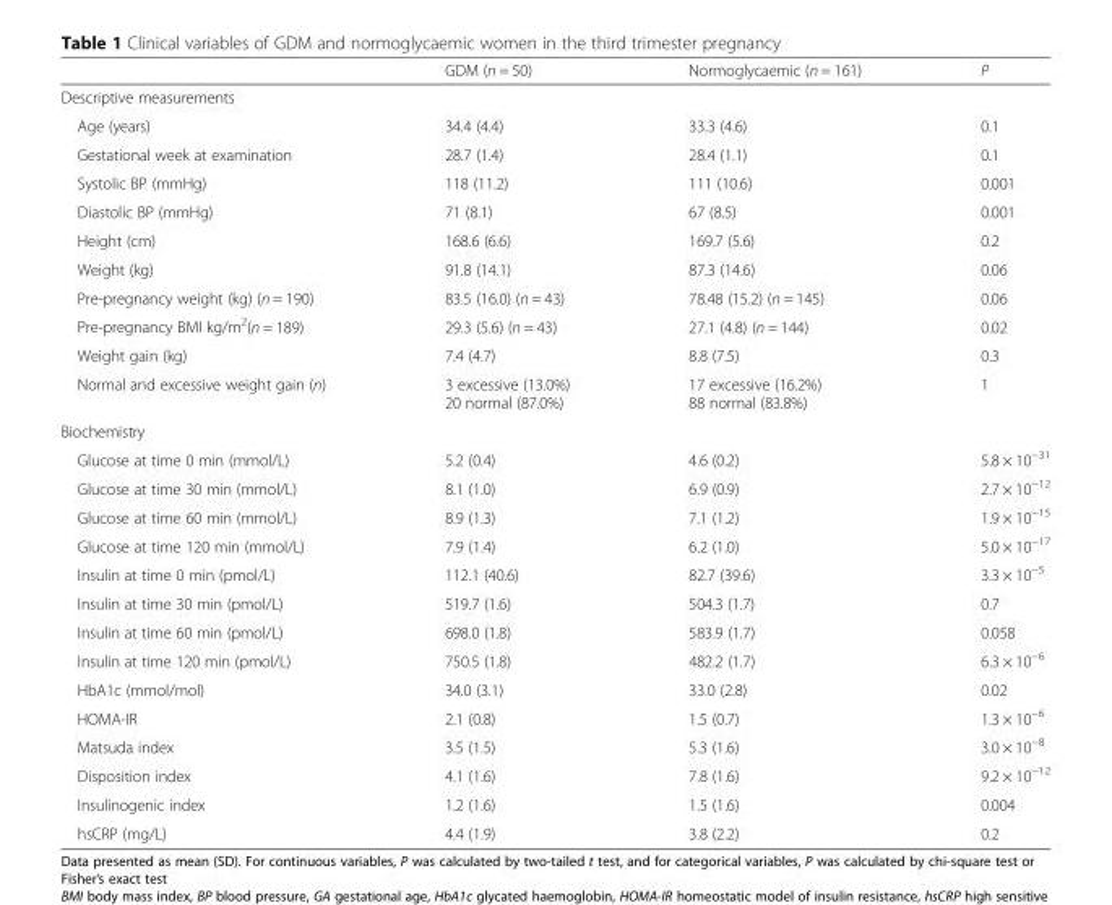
<table><thead><tr><td></td><td>GDM (n = 50)</td><td>Normoglycaemic (n = 161)</td><td>P</td></tr></thead><tbody><tr><td colspan="4">Descriptive measurements</td></tr><tr><td>Age (years)</td><td>34.4 (4.4)</td><td>33.3 (4.6)</td><td>0.1</td></tr><tr><td>Gestational week at examination</td><td>28.7 (1.4)</td><td>28.4 (1.1)</td><td>0.1</td></tr><tr><td>Systolic BP (mmHg)</td><td>118 (11.2)</td><td>111 (10.6)</td><td>0.001</td></tr><tr><td>Diastolic BP (mmHg)</td><td>71 (8.1)</td><td>67 (8.5)</td><td>0.001</td></tr><tr><td>Height (cm)</td><td>168.6 (6.6)</td><td>169.7 (5.6)</td><td>0.2</td></tr><tr><td>Weight (kg)</td><td>91.8 (14.1)</td><td>87.3 (14.6)</td><td>0.06</td></tr><tr><td>Pre-pregnancy weight (kg) (n = 190)</td><td>83.5 (16.0) (n = 43)</td><td>78.48 (15.2) (n = 145)</td><td>0.06</td></tr><tr><td>Pre-pregnancy BMI kg/m<sup>2</sup>(n = 189)</td><td>29.3 (5.6) (n = 43)</td><td>27.1 (4.8) (n = 144)</td><td>0.02</td></tr><tr><td>Weight gain (kg)</td><td>7.4 (4.7)</td><td>8.8 (7.5)</td><td>0.3</td></tr><tr><td>Normal and excessive weight gain (n)</td><td>3 excessive (13.0%) 20 normal (87.0%)</td><td>17 excessive (16.2%) 88 normal (83.8%)</td><td>1</td></tr><tr><td colspan="4">Biochemistry</td></tr><tr><td>Glucose at time 0 min (mmol/L)</td><td>5.2 (0.4)</td><td>4.6 (0.2)</td><td>5.8 × 10<sup>−31</sup></td></tr><tr><td>Glucose at time 30 min (mmol/L)</td><td>8.1 (1.0)</td><td>6.9 (0.9)</td><td>2.7 × 10<sup>−12</sup></td></tr><tr><td>Glucose at time 60 min (mmol/L)</td><td>8.9 (1.3)</td><td>7.1 (1.2)</td><td>1.9 × 10<sup>−15</sup></td></tr><tr><td>Glucose at time 120 min (mmol/L)</td><td>7.9 (1.4)</td><td>6.2 (1.0)</td><td>5.0 × 10<sup>−17</sup></td></tr><tr><td>Insulin at time 0 min (pmol/L)</td><td>112.1 (40.6)</td><td>82.7 (39.6)</td><td>3.3 × 10<sup>−5</sup></td></tr><tr><td>Insulin at time 30 min (pmol/L)</td><td>519.7 (1.6)</td><td>504.3 (1.7)</td><td>0.7</td></tr><tr><td>Insulin at time 60 min (pmol/L)</td><td>698.0 (1.8)</td><td>583.9 (1.7)</td><td>0.058</td></tr><tr><td>Insulin at time 120 min (pmol/L)</td><td>750.5 (1.8)</td><td>482.2 (1.7)</td><td>6.3 × 10<sup>−6</sup></td></tr><tr><td>HbA1c (mmol/mol)</td><td>34.0 (3.1)</td><td>33.0 (2.8)</td><td>0.02</td></tr><tr><td>HOMA-IR</td><td>2.1 (0.8)</td><td>1.5 (0.7)</td><td>1.3 × 10<sup>−6</sup></td></tr><tr><td>Matsuda index</td><td>3.5 (1.5)</td><td>5.3 (1.6)</td><td>3.0 × 10<sup>−8</sup></td></tr><tr><td>Disposition index</td><td>4.1 (1.6)</td><td>7.8 (1.6)</td><td>9.2 × 10<sup>−12</sup></td></tr><tr><td>Insulinogenic index</td><td>1.2 (1.6)</td><td>1.5 (1.6)</td><td>0.004</td></tr><tr><td>hsCRP (mg/L)</td><td>4.4 (1.9)</td><td>3.8 (2.2)</td><td>0.2</td></tr></tbody></table>